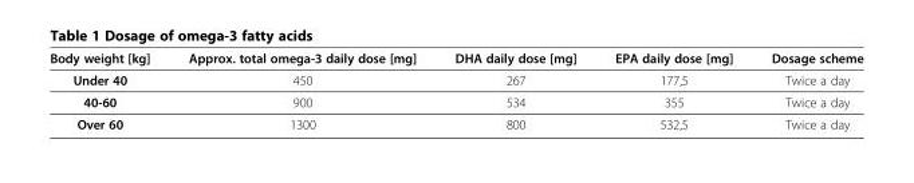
<table><thead><tr><td>Body weight [kg]</td><td>Approx. total omega-3 daily dose [mg]</td><td>DHA daily dose [mg]</td><td>EPA daily dose [mg]</td><td>Dosage scheme</td></tr></thead><tbody><tr><td>Under 40</td><td>450</td><td>267</td><td>177,5</td><td>Twice a day</td></tr><tr><td>40-60</td><td>900</td><td>534</td><td>355</td><td>Twice a day</td></tr><tr><td>Over 60</td><td>1300</td><td>800</td><td>532,5</td><td>Twice a day</td></tr></tbody></table>